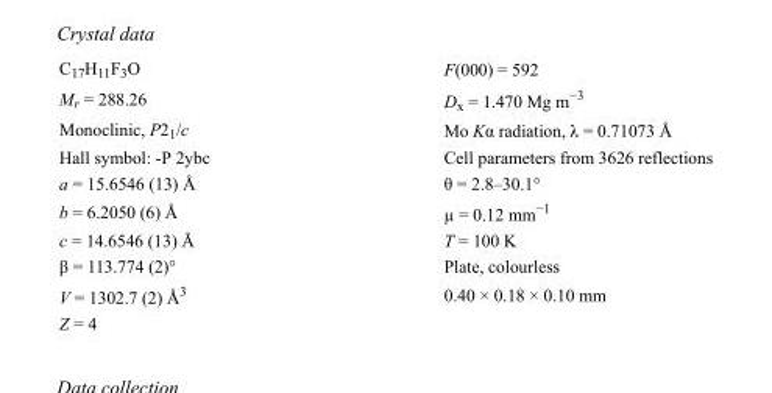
<table><tbody><tr><td>C<sub>17</sub>H<sub>11</sub>F<sub>3</sub>O</td><td>F(000) = 592</td></tr><tr><td>M<sub>r</sub> = 288.26</td><td>D<sub>x</sub> = 1.470 Mg m<sup>−3</sup></td></tr><tr><td>Monoclinic, P2<sub>1</sub>/c</td><td>Mo Kα radiation, λ = 0.71073 Å</td></tr><tr><td>Hall symbol: -P 2ybc</td><td>Cell parameters from 3626 reflections</td></tr><tr><td>a = 15.6546 (13) Å</td><td>θ = 2.8–30.1°</td></tr><tr><td>b = 6.2050 (6) Å</td><td>µ = 0.12 mm<sup>−1</sup></td></tr><tr><td>c = 14.6546 (13) Å</td><td>T = 100 K</td></tr><tr><td>β = 113.774 (2)°</td><td>Plate, colourless</td></tr><tr><td>V = 1302.7 (2) Å<sup>3</sup></td><td>0.40 × 0.18 × 0.10 mm</td></tr><tr><td>Z = 4</td><td></td></tr></tbody></table>